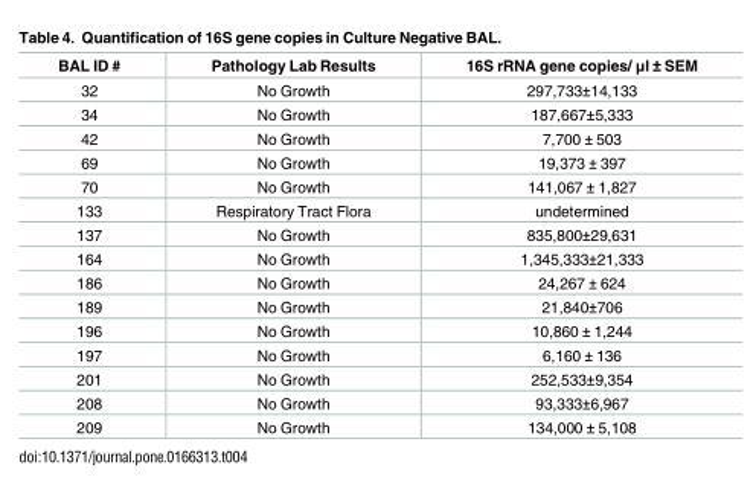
<table><thead><tr><td>BAL ID #</td><td>Pathology Lab Results</td><td>16S rRNA gene copies/ μl ± SEM</td></tr></thead><tbody><tr><td>32</td><td>No Growth</td><td>297,733±14,133</td></tr><tr><td>34</td><td>No Growth</td><td>187,667±5,333</td></tr><tr><td>42</td><td>No Growth</td><td>7,700 ± 503</td></tr><tr><td>69</td><td>No Growth</td><td>19,373 ± 397</td></tr><tr><td>70</td><td>No Growth</td><td>141,067 ± 1,827</td></tr><tr><td>133</td><td>Respiratory Tract Flora</td><td>undetermined</td></tr><tr><td>137</td><td>No Growth</td><td>835,800±29,631</td></tr><tr><td>164</td><td>No Growth</td><td>1,345,333±21,333</td></tr><tr><td>186</td><td>No Growth</td><td>24,267 ± 624</td></tr><tr><td>189</td><td>No Growth</td><td>21,840±706</td></tr><tr><td>196</td><td>No Growth</td><td>10,860 ± 1,244</td></tr><tr><td>197</td><td>No Growth</td><td>6,160 ± 136</td></tr><tr><td>201</td><td>No Growth</td><td>252,533±9,354</td></tr><tr><td>208</td><td>No Growth</td><td>93,333±6,967</td></tr><tr><td>209</td><td>No Growth</td><td>134,000 ± 5,108</td></tr></tbody></table>